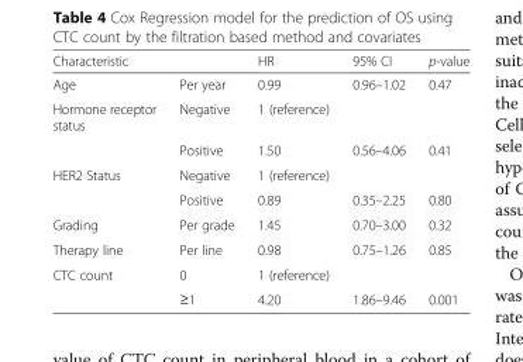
<table><thead><tr><td>Characteristic</td><td></td><td>HR</td><td>95% CI</td><td>p-value</td></tr></thead><tbody><tr><td>Age</td><td>Per year</td><td>0.99</td><td>0.96–1.02</td><td>0.47</td></tr><tr><td rowspan="2">Hormone receptor status</td><td>Negative</td><td>1 (reference)</td><td></td><td></td></tr><tr><td>Positive</td><td>1.50</td><td>0.56–4.06</td><td>0.41</td></tr><tr><td rowspan="2">HER2 Status</td><td>Negative</td><td>1 (reference)</td><td></td><td></td></tr><tr><td>Positive</td><td>0.89</td><td>0.35–2.25</td><td>0.80</td></tr><tr><td>Grading</td><td>Per grade</td><td>1.45</td><td>0.70–3.00</td><td>0.32</td></tr><tr><td>Therapy line</td><td>Per line</td><td>0.98</td><td>0.75–1.26</td><td>0.85</td></tr><tr><td rowspan="2">CTC count</td><td>0</td><td>1 (reference)</td><td></td><td></td></tr><tr><td>≥1</td><td>4.20</td><td>1.86–9.46</td><td>0.001</td></tr></tbody></table>